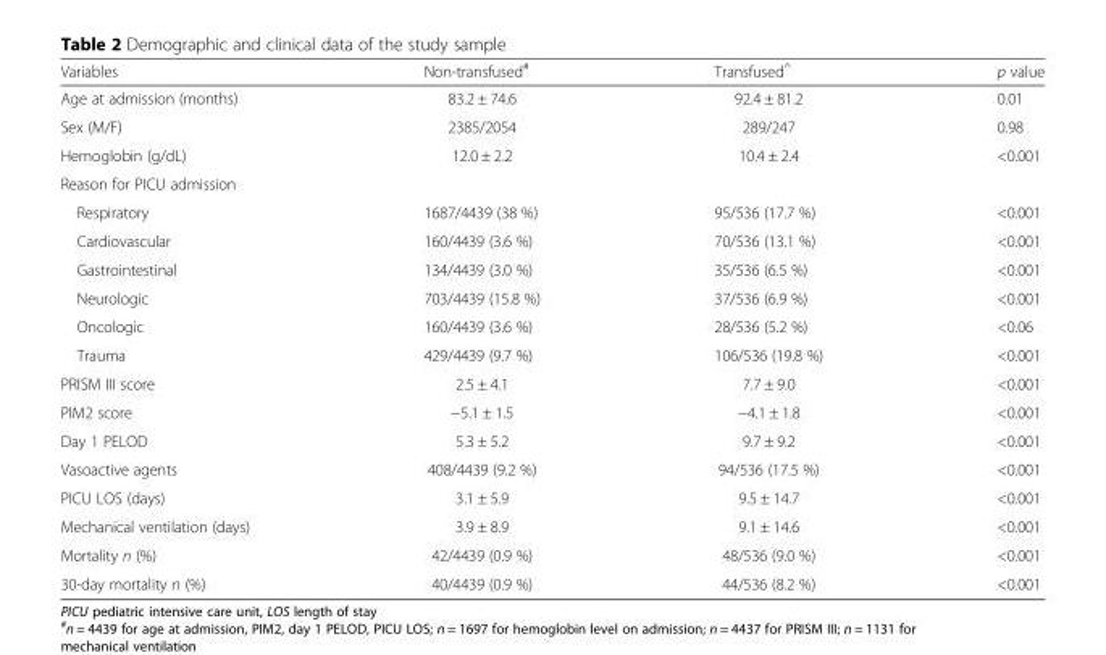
<table><thead><tr><td>Variables</td><td>Non-transfused<sup>#</sup></td><td>Transfused<sup>^</sup></td><td>p value</td></tr></thead><tbody><tr><td>Age at admission (months)</td><td>83.2 ± 74.6</td><td>92.4 ± 81.2</td><td>0.01</td></tr><tr><td>Sex (M/F)</td><td>2385/2054</td><td>289/247</td><td>0.98</td></tr><tr><td>Hemoglobin (g/dL)</td><td>12.0 ± 2.2</td><td>10.4 ± 2.4</td><td>&lt;0.001</td></tr><tr><td colspan="4">Reason for PICU admission</td></tr><tr><td>Respiratory</td><td>1687/4439 (38 %)</td><td>95/536 (17.7 %)</td><td>&lt;0.001</td></tr><tr><td>Cardiovascular</td><td>160/4439 (3.6 %)</td><td>70/536 (13.1 %)</td><td>&lt;0.001</td></tr><tr><td>Gastrointestinal</td><td>134/4439 (3.0 %)</td><td>35/536 (6.5 %)</td><td>&lt;0.001</td></tr><tr><td>Neurologic</td><td>703/4439 (15.8 %)</td><td>37/536 (6.9 %)</td><td>&lt;0.001</td></tr><tr><td>Oncologic</td><td>160/4439 (3.6 %)</td><td>28/536 (5.2 %)</td><td>&lt;0.06</td></tr><tr><td>Trauma</td><td>429/4439 (9.7 %)</td><td>106/536 (19.8 %)</td><td>&lt;0.001</td></tr><tr><td>PRISM III score</td><td>2.5 ± 4.1</td><td>7.7 ± 9.0</td><td>&lt;0.001</td></tr><tr><td>PIM2 score</td><td>−5.1 ± 1.5</td><td>−4.1 ± 1.8</td><td>&lt;0.001</td></tr><tr><td>Day 1 PELOD</td><td>5.3 ± 5.2</td><td>9.7 ± 9.2</td><td>&lt;0.001</td></tr><tr><td>Vasoactive agents</td><td>408/4439 (9.2 %)</td><td>94/536 (17.5 %)</td><td>&lt;0.001</td></tr><tr><td>PICU LOS (days)</td><td>3.1 ± 5.9</td><td>9.5 ± 14.7</td><td>&lt;0.001</td></tr><tr><td>Mechanical ventilation (days)</td><td>3.9 ± 8.9</td><td>9.1 ± 14.6</td><td>&lt;0.001</td></tr><tr><td>Mortality n (%)</td><td>42/4439 (0.9 %)</td><td>48/536 (9.0 %)</td><td>&lt;0.001</td></tr><tr><td>30-day mortality n (%)</td><td>40/4439 (0.9 %)</td><td>44/536 (8.2 %)</td><td>&lt;0.001</td></tr></tbody></table>